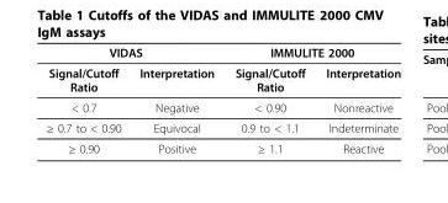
<table><thead><tr><td colspan="2">VIDAS</td><td colspan="2">IMMULITE 2000</td></tr><tr><td>Signal/Cutoff Ratio</td><td>Interpretation</td><td>Signal/Cutoff Ratio</td><td>Interpretation</td></tr></thead><tbody><tr><td>&lt; 0.7</td><td>Negative</td><td>&lt; 0.90</td><td>Nonreactive</td></tr><tr><td>≥ 0.7 to &lt; 0.90</td><td>Equivocal</td><td>0.9 to &lt; 1.1</td><td>Indeterminate</td></tr><tr><td>≥ 0.90</td><td>Positive</td><td>≥ 1.1</td><td>Reactive</td></tr></tbody></table>